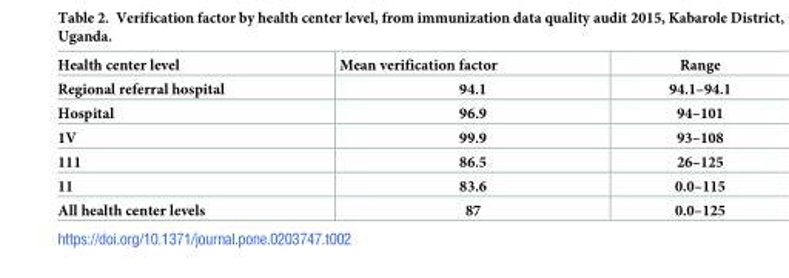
<table><thead><tr><td>Health center level</td><td>Mean verification factor</td><td>Range</td></tr></thead><tbody><tr><td>Regional referral hospital</td><td>94.1</td><td>94.1–94.1</td></tr><tr><td>Hospital</td><td>96.9</td><td>94–101</td></tr><tr><td>1V</td><td>99.9</td><td>93–108</td></tr><tr><td>111</td><td>86.5</td><td>26–125</td></tr><tr><td>11</td><td>83.6</td><td>0.0–115</td></tr><tr><td>All health center levels</td><td>87</td><td>0.0–125</td></tr></tbody></table>